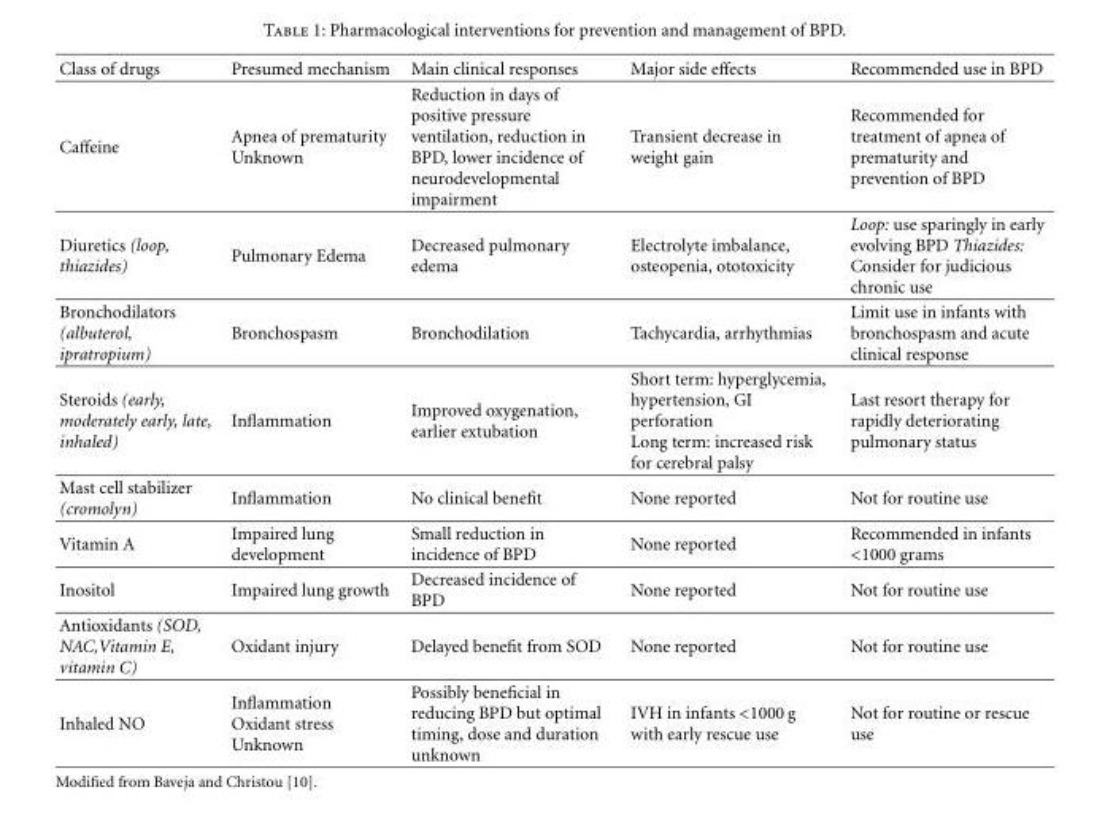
<table><thead><tr><td>Class of drugs</td><td>Presumed mechanism</td><td>Main clinical responses</td><td>Major side effects</td><td>Recommended use in BPD</td></tr></thead><tbody><tr><td>Caffeine</td><td>Apnea of prematurity Unknown</td><td>Reduction in days of positive pressure ventilation, reduction in BPD, lower incidence of neurodevelopmental impairment</td><td>Transient decrease in weight gain</td><td>Recommended for treatment of apnea of prematurity and prevention of BPD</td></tr><tr><td>Diuretics (loop, thiazides)</td><td>Pulmonary Edema</td><td>Decreased pulmonary edema</td><td>Electrolyte imbalance, osteopenia, ototoxicity</td><td>Loop: use sparingly in early evolving BPD Thiazides: Consider for judicious chronic use</td></tr><tr><td>Bronchodilators (albuterol, ipratropium)</td><td>Bronchospasm</td><td>Bronchodilation</td><td>Tachycardia, arrhythmias</td><td>Limit use in infants with bronchospasm and acute clinical response</td></tr><tr><td>Steroids (early, moderately early, late, inhaled)</td><td>Inflammation</td><td>Improved oxygenation, earlier extubation</td><td>Short term: hyperglycemia, hypertension, GI perforation Long term: increased risk for cerebral palsy</td><td>Last resort therapy for rapidly deteriorating pulmonary status</td></tr><tr><td>Mast cell stabilizer (cromolyn)</td><td>Inflammation</td><td>No clinical benefit</td><td>None reported</td><td>Not for routine use</td></tr><tr><td>Vitamin A</td><td>Impaired lung development</td><td>Small reduction in incidence of BPD</td><td>None reported</td><td>Recommended in infants &lt;1000 grams</td></tr><tr><td>Inositol</td><td>Impaired lung growth</td><td>Decreased incidence of BPD</td><td>None reported</td><td>Not for routine use</td></tr><tr><td>Antioxidants (SOD, NAC,Vitamin E, vitamin C)</td><td>Oxidant injury</td><td>Delayed benefit from SOD</td><td>None reported</td><td>Not for routine use</td></tr><tr><td>Inhaled NO</td><td>Inflammation Oxidant stress Unknown</td><td>Possibly beneficial in reducing BPD but optimal timing, dose and duration unknown</td><td>IVH in infants &lt;1000 g with early rescue use</td><td>Not for routine or rescue use</td></tr></tbody></table>